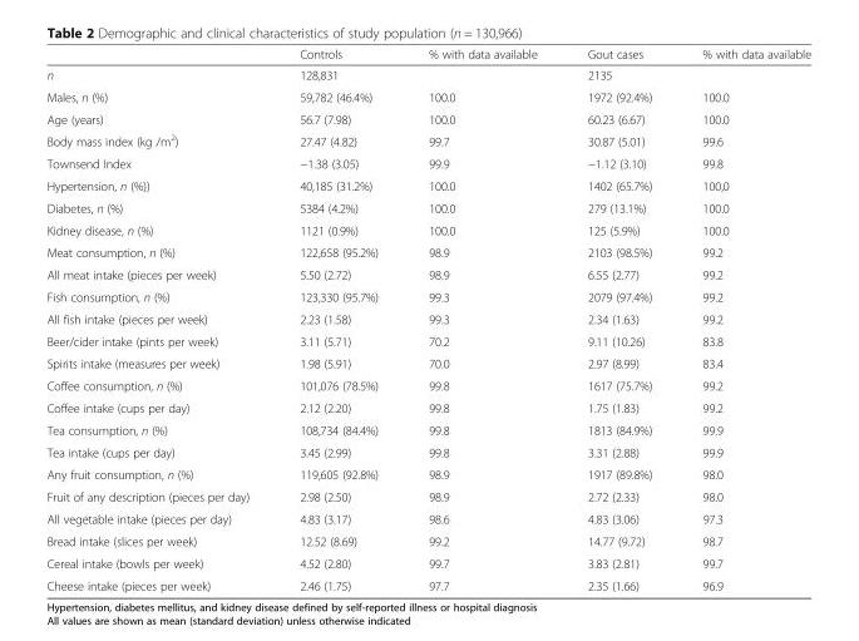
<table><thead><tr><td></td><td>Controls</td><td>% with data available</td><td>Gout cases</td><td>% with data available</td></tr></thead><tbody><tr><td>n</td><td>128,831</td><td></td><td>2135</td><td></td></tr><tr><td>Males, n (%)</td><td>59,782 (46.4%)</td><td>100.0</td><td>1972 (92.4%)</td><td>100.0</td></tr><tr><td>Age (years)</td><td>56.7 (7.98)</td><td>100.0</td><td>60.23 (6.67)</td><td>100.0</td></tr><tr><td>Body mass index (kg /m<sup>2</sup>)</td><td>27.47 (4.82)</td><td>99.7</td><td>30.87 (5.01)</td><td>99.6</td></tr><tr><td>Townsend Index</td><td>−1.38 (3.05)</td><td>99.9</td><td>−1.12 (3.10)</td><td>99.8</td></tr><tr><td>Hypertension, n (%))</td><td>40,185 (31.2%)</td><td>100.0</td><td>1402 (65.7%)</td><td>100,0</td></tr><tr><td>Diabetes, n (%)</td><td>5384 (4.2%)</td><td>100.0</td><td>279 (13.1%)</td><td>100.0</td></tr><tr><td>Kidney disease, n (%)</td><td>1121 (0.9%)</td><td>100.0</td><td>125 (5.9%)</td><td>100.0</td></tr><tr><td>Meat consumption, n (%)</td><td>122,658 (95.2%)</td><td>98.9</td><td>2103 (98.5%)</td><td>99.2</td></tr><tr><td>All meat intake (pieces per week)</td><td>5.50 (2.72)</td><td>98.9</td><td>6.55 (2.77)</td><td>99.2</td></tr><tr><td>Fish consumption, n (%)</td><td>123,330 (95.7%)</td><td>99.3</td><td>2079 (97.4%)</td><td>99.2</td></tr><tr><td>All fish intake (pieces per week)</td><td>2.23 (1.58)</td><td>99.3</td><td>2.34 (1.63)</td><td>99.2</td></tr><tr><td>Beer/cider intake (pints per week)</td><td>3.11 (5.71)</td><td>70.2</td><td>9.11 (10.26)</td><td>83.8</td></tr><tr><td>Spirits intake (measures per week)</td><td>1.98 (5.91)</td><td>70.0</td><td>2.97 (8.99)</td><td>83.4</td></tr><tr><td>Coffee consumption, n (%)</td><td>101,076 (78.5%)</td><td>99.8</td><td>1617 (75.7%)</td><td>99.2</td></tr><tr><td>Coffee intake (cups per day)</td><td>2.12 (2.20)</td><td>99.8</td><td>1.75 (1.83)</td><td>99.2</td></tr><tr><td>Tea consumption, n (%)</td><td>108,734 (84.4%)</td><td>99.8</td><td>1813 (84.9%)</td><td>99.9</td></tr><tr><td>Tea intake (cups per day)</td><td>3.45 (2.99)</td><td>99.8</td><td>3.31 (2.88)</td><td>99.9</td></tr><tr><td>Any fruit consumption, n (%)</td><td>119,605 (92.8%)</td><td>98.9</td><td>1917 (89.8%)</td><td>98.0</td></tr><tr><td>Fruit of any description (pieces per day)</td><td>2.98 (2.50)</td><td>98.9</td><td>2.72 (2.33)</td><td>98.0</td></tr><tr><td>All vegetable intake (pieces per day)</td><td>4.83 (3.17)</td><td>98.6</td><td>4.83 (3.06)</td><td>97.3</td></tr><tr><td>Bread intake (slices per week)</td><td>12.52 (8.69)</td><td>99.2</td><td>14.77 (9.72)</td><td>98.7</td></tr><tr><td>Cereal intake (bowls per week)</td><td>4.52 (2.80)</td><td>99.7</td><td>3.83 (2.81)</td><td>99.7</td></tr><tr><td>Cheese intake (pieces per week)</td><td>2.46 (1.75)</td><td>97.7</td><td>2.35 (1.66)</td><td>96.9</td></tr></tbody></table>